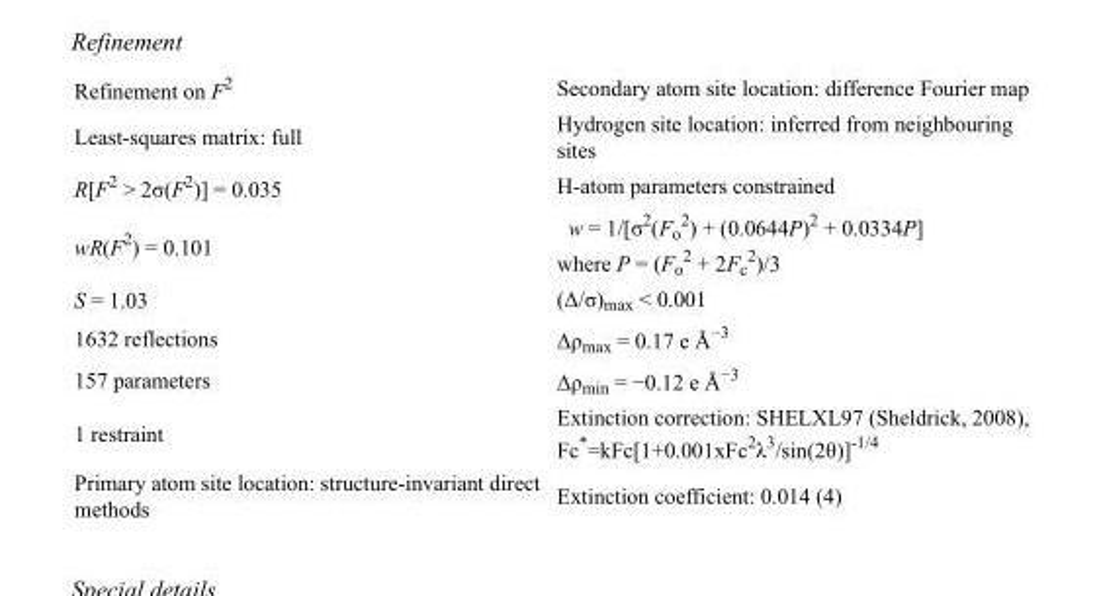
<table><tbody><tr><td>Refinement on F<sup>2</sup></td><td>Secondary atom site location: difference Fourier map</td></tr><tr><td>Least-squares matrix: full</td><td>Hydrogen site location: inferred from neighbouring sites</td></tr><tr><td>R[F<sup>2</sup> &gt; 2σ(F<sup>2</sup>)] = 0.035</td><td>H-atom parameters constrained</td></tr><tr><td>wR(F<sup>2</sup>) = 0.101</td><td>w = 1/[σ<sup>2</sup>(F<sub>o</sub> <sup>2</sup>) + (0.0644P)<sup>2</sup> + 0.0334P] where P = (F<sub>o</sub> <sup>2</sup> + 2F<sub>c</sub> <sup>2</sup>)/3</td></tr><tr><td>S = 1.03</td><td>(Δ/σ)<sub>max</sub> &lt; 0.001</td></tr><tr><td>1632 reflections</td><td>Δρ<sub>max</sub> = 0.17 e Å<sup>−3</sup></td></tr><tr><td>157 parameters</td><td>Δρ<sub>min</sub> = −0.12 e Å<sup>−3</sup></td></tr><tr><td>1 restraint</td><td>Extinction correction: SHELXL97 (Sheldrick, 2008), Fc*=kFc[1+0.001xFc<sup>2</sup>λ<sup>3</sup>/sin(2θ)]<sup>-1/4</sup></td></tr><tr><td>Primary atom site location: structure-invariant direct methods</td><td>Extinction coefficient: 0.014 (4)</td></tr></tbody></table>